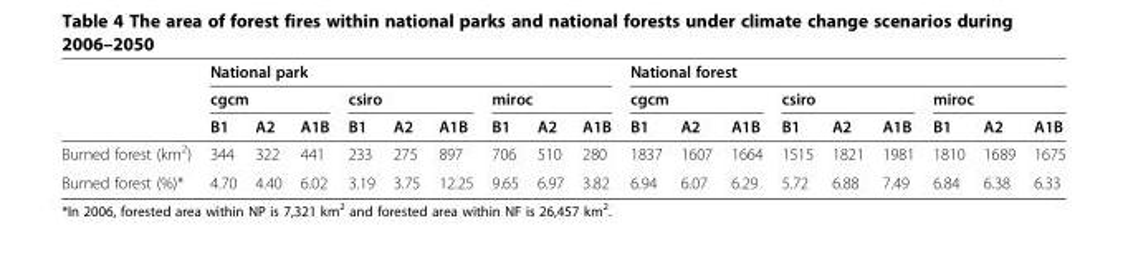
<table><thead><tr><td rowspan="3"></td><td colspan="9">National park</td><td colspan="9">National forest</td></tr><tr><td colspan="3">cgcm</td><td colspan="3">csiro</td><td colspan="3">miroc</td><td colspan="3">cgcm</td><td colspan="3">csiro</td><td colspan="3">miroc</td></tr><tr><td>B1</td><td>A2</td><td>A1B</td><td>B1</td><td>A2</td><td>A1B</td><td>B1</td><td>A2</td><td>A1B</td><td>B1</td><td>A2</td><td>A1B</td><td>B1</td><td>A2</td><td>A1B</td><td>B1</td><td>A2</td><td>A1B</td></tr></thead><tbody><tr><td>Burned forest (km<sup>2</sup>)</td><td>344</td><td>322</td><td>441</td><td>233</td><td>275</td><td>897</td><td>706</td><td>510</td><td>280</td><td>1837</td><td>1607</td><td>1664</td><td>1515</td><td>1821</td><td>1981</td><td>1810</td><td>1689</td><td>1675</td></tr><tr><td>Burned forest (%)*</td><td>4.70</td><td>4.40</td><td>6.02</td><td>3.19</td><td>3.75</td><td>12.25</td><td>9.65</td><td>6.97</td><td>3.82</td><td>6.94</td><td>6.07</td><td>6.29</td><td>5.72</td><td>6.88</td><td>7.49</td><td>6.84</td><td>6.38</td><td>6.33</td></tr></tbody></table>